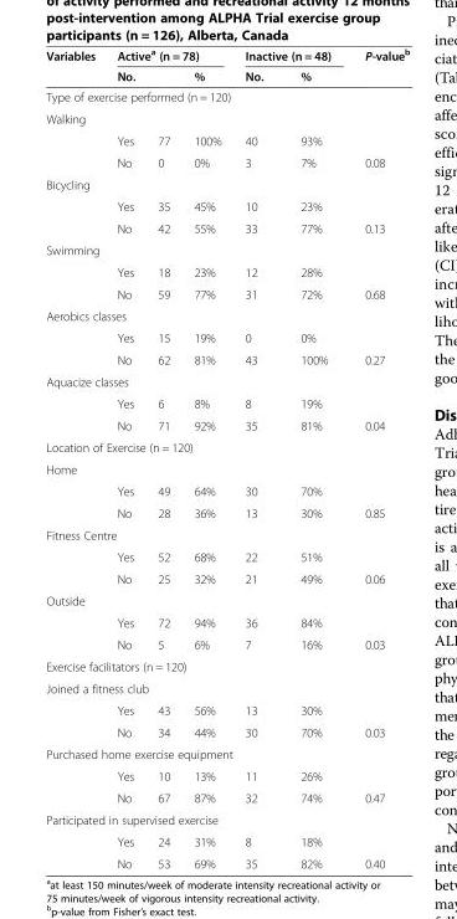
<table><thead><tr><td rowspan="2">Variables</td><td colspan="3">Active<sup>a</sup> (n = 78)</td><td colspan="2">Inactive (n = 48)</td><td rowspan="2">P-value<sup>b</sup></td></tr><tr><td colspan="2">No.</td><td>%</td><td>No.</td><td>%</td></tr><tr><td colspan="7">Type of exercise performed (n = 120)</td></tr><tr><td colspan="2">Walking</td><td rowspan="2">77</td><td rowspan="2">100%</td><td rowspan="2">40</td><td rowspan="2">93%</td><td rowspan="2"></td></tr><tr><td></td><td>Yes</td></tr></thead><tbody><tr><td></td><td>No</td><td>0</td><td>0%</td><td>3</td><td>7%</td><td>0.08</td></tr><tr><td colspan="7">Bicycling</td></tr><tr><td></td><td>Yes</td><td>35</td><td>45%</td><td>10</td><td>23%</td><td></td></tr><tr><td></td><td>No</td><td>42</td><td>55%</td><td>33</td><td>77%</td><td>0.13</td></tr><tr><td colspan="7">Swimming</td></tr><tr><td></td><td>Yes</td><td>18</td><td>23%</td><td>12</td><td>28%</td><td></td></tr><tr><td></td><td>No</td><td>59</td><td>77%</td><td>31</td><td>72%</td><td>0.68</td></tr><tr><td colspan="7">Aerobics classes</td></tr><tr><td></td><td>Yes</td><td>15</td><td>19%</td><td>0</td><td>0%</td><td></td></tr><tr><td></td><td>No</td><td>62</td><td>81%</td><td>43</td><td>100%</td><td>0.27</td></tr><tr><td colspan="7">Aquacize classes</td></tr><tr><td></td><td>Yes</td><td>6</td><td>8%</td><td>8</td><td>19%</td><td></td></tr><tr><td></td><td>No</td><td>71</td><td>92%</td><td>35</td><td>81%</td><td>0.04</td></tr><tr><td colspan="7">Location of Exercise (n = 120)</td></tr><tr><td colspan="7">Home</td></tr><tr><td></td><td>Yes</td><td>49</td><td>64%</td><td>30</td><td>70%</td><td></td></tr><tr><td></td><td>No</td><td>28</td><td>36%</td><td>13</td><td>30%</td><td>0.85</td></tr><tr><td colspan="7">Fitness Centre</td></tr><tr><td></td><td>Yes</td><td>52</td><td>68%</td><td>22</td><td>51%</td><td></td></tr><tr><td></td><td>No</td><td>25</td><td>32%</td><td>21</td><td>49%</td><td>0.06</td></tr><tr><td colspan="7">Outside</td></tr><tr><td></td><td>Yes</td><td>72</td><td>94%</td><td>36</td><td>84%</td><td></td></tr><tr><td></td><td>No</td><td>5</td><td>6%</td><td>7</td><td>16%</td><td>0.03</td></tr><tr><td colspan="7">Exercise facilitators (n = 120)</td></tr><tr><td colspan="7">Joined a fitness club</td></tr><tr><td></td><td>Yes</td><td>43</td><td>56%</td><td>13</td><td>30%</td><td></td></tr><tr><td></td><td>No</td><td>34</td><td>44%</td><td>30</td><td>70%</td><td>0.03</td></tr><tr><td colspan="7">Purchased home exercise equipment</td></tr><tr><td></td><td>Yes</td><td>10</td><td>13%</td><td>11</td><td>26%</td><td></td></tr><tr><td></td><td>No</td><td>67</td><td>87%</td><td>32</td><td>74%</td><td>0.47</td></tr><tr><td colspan="7">Participated in supervised exercise</td></tr><tr><td></td><td>Yes</td><td>24</td><td>31%</td><td>8</td><td>18%</td><td></td></tr><tr><td></td><td>No</td><td>53</td><td>69%</td><td>35</td><td>82%</td><td>0.40</td></tr></tbody></table>